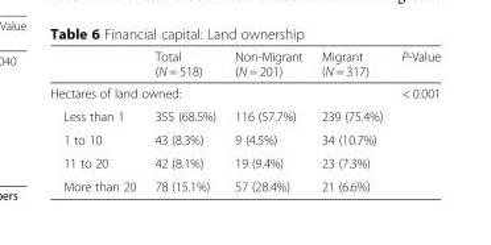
<table><thead><tr><td></td><td>Total (N = 518)</td><td>Non-Migrant (N = 201)</td><td>Migrant (N = 317)</td><td>P-Value</td></tr></thead><tbody><tr><td colspan="4">Hectares of land owned:</td><td>&lt; 0.001</td></tr><tr><td>Less than 1</td><td>355 (68.5%)</td><td>116 (57.7%)</td><td>239 (75.4%)</td><td></td></tr><tr><td>1 to 10</td><td>43 (8.3%)</td><td>9 (4.5%)</td><td>34 (10.7%)</td><td></td></tr><tr><td>11 to 20</td><td>42 (8.1%)</td><td>19 (9.4%)</td><td>23 (7.3%)</td><td></td></tr><tr><td>More than 20</td><td>78 (15.1%)</td><td>57 (28.4%)</td><td>21 (6.6%)</td><td></td></tr></tbody></table>